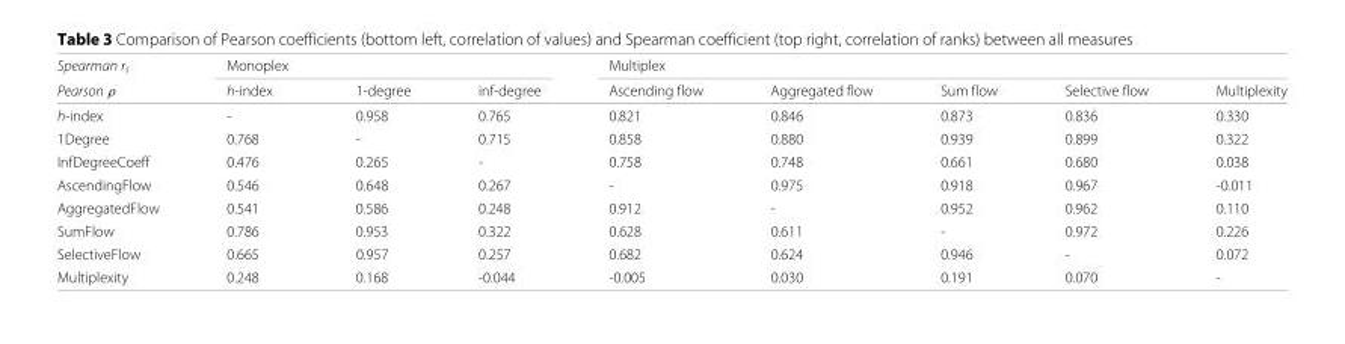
<table><thead><tr><td rowspan="2">Spearman r<sub>s</sub> Pearson ρ</td><td rowspan="2">Monoplex h-index</td><td rowspan="2">1-degree</td><td rowspan="2">inf-degree</td><td rowspan="2">Multiplex Ascending flow</td><td rowspan="2">Aggregated flow</td><td rowspan="2">Sum flow</td><td rowspan="2">Selective flow</td><td rowspan="2">Multiplexity</td></tr><tr></tr></thead><tbody><tr><td>h-index</td><td>-</td><td>0.958</td><td>0.765</td><td>0.821</td><td>0.846</td><td>0.873</td><td>0.836</td><td>0.330</td></tr><tr><td>1Degree</td><td>0.768</td><td>-</td><td>0.715</td><td>0.858</td><td>0.880</td><td>0.939</td><td>0.899</td><td>0.322</td></tr><tr><td>InfDegreeCoeff</td><td>0.476</td><td>0.265</td><td>-</td><td>0.758</td><td>0.748</td><td>0.661</td><td>0.680</td><td>0.038</td></tr><tr><td>AscendingFlow</td><td>0.546</td><td>0.648</td><td>0.267</td><td>-</td><td>0.975</td><td>0.918</td><td>0.967</td><td>-0.011</td></tr><tr><td>AggregatedFlow</td><td>0.541</td><td>0.586</td><td>0.248</td><td>0.912</td><td>-</td><td>0.952</td><td>0.962</td><td>0.110</td></tr><tr><td>SumFlow</td><td>0.786</td><td>0.953</td><td>0.322</td><td>0.628</td><td>0.611</td><td>-</td><td>0.972</td><td>0.226</td></tr><tr><td>SelectiveFlow</td><td>0.665</td><td>0.957</td><td>0.257</td><td>0.682</td><td>0.624</td><td>0.946</td><td>-</td><td>0.072</td></tr><tr><td>Multiplexity</td><td>0.248</td><td>0.168</td><td>-0.044</td><td>-0.005</td><td>0.030</td><td>0.191</td><td>0.070</td><td>-</td></tr></tbody></table>